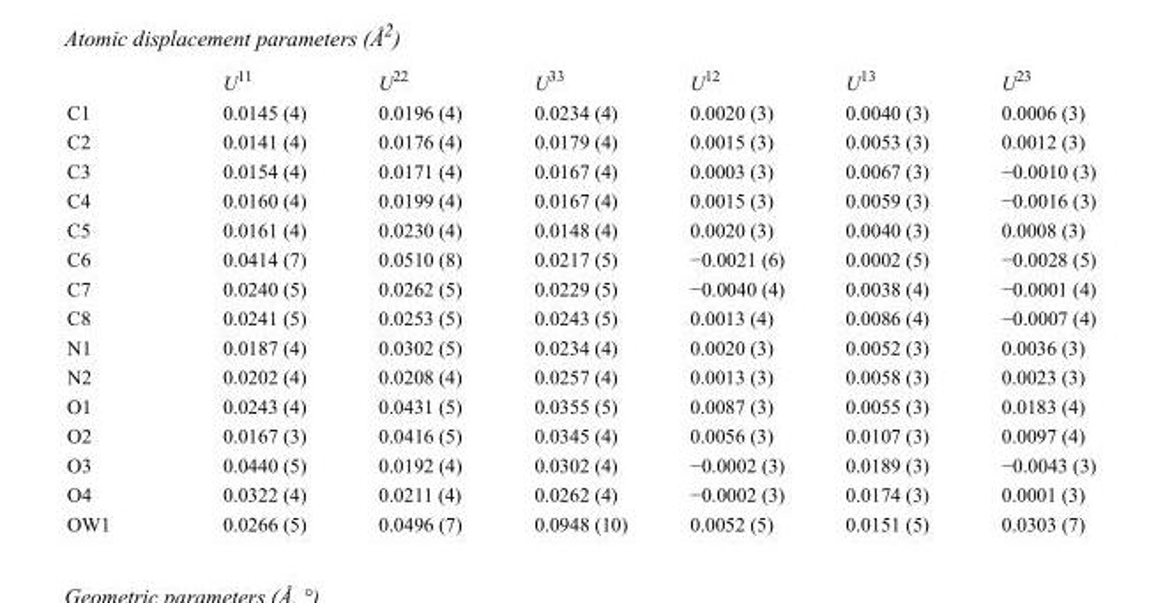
<table><thead><tr><td></td><td>U<sup>11</sup></td><td>U<sup>22</sup></td><td>U<sup>33</sup></td><td>U<sup>12</sup></td><td>U<sup>13</sup></td><td>U<sup>23</sup></td></tr></thead><tbody><tr><td>C1</td><td>0.0145 (4)</td><td>0.0196 (4)</td><td>0.0234 (4)</td><td>0.0020 (3)</td><td>0.0040 (3)</td><td>0.0006 (3)</td></tr><tr><td>C2</td><td>0.0141 (4)</td><td>0.0176 (4)</td><td>0.0179 (4)</td><td>0.0015 (3)</td><td>0.0053 (3)</td><td>0.0012 (3)</td></tr><tr><td>C3</td><td>0.0154 (4)</td><td>0.0171 (4)</td><td>0.0167 (4)</td><td>0.0003 (3)</td><td>0.0067 (3)</td><td>−0.0010 (3)</td></tr><tr><td>C4</td><td>0.0160 (4)</td><td>0.0199 (4)</td><td>0.0167 (4)</td><td>0.0015 (3)</td><td>0.0059 (3)</td><td>−0.0016 (3)</td></tr><tr><td>C5</td><td>0.0161 (4)</td><td>0.0230 (4)</td><td>0.0148 (4)</td><td>0.0020 (3)</td><td>0.0040 (3)</td><td>0.0008 (3)</td></tr><tr><td>C6</td><td>0.0414 (7)</td><td>0.0510 (8)</td><td>0.0217 (5)</td><td>−0.0021 (6)</td><td>0.0002 (5)</td><td>−0.0028 (5)</td></tr><tr><td>C7</td><td>0.0240 (5)</td><td>0.0262 (5)</td><td>0.0229 (5)</td><td>−0.0040 (4)</td><td>0.0038 (4)</td><td>−0.0001 (4)</td></tr><tr><td>C8</td><td>0.0241 (5)</td><td>0.0253 (5)</td><td>0.0243 (5)</td><td>0.0013 (4)</td><td>0.0086 (4)</td><td>−0.0007 (4)</td></tr><tr><td>N1</td><td>0.0187 (4)</td><td>0.0302 (5)</td><td>0.0234 (4)</td><td>0.0020 (3)</td><td>0.0052 (3)</td><td>0.0036 (3)</td></tr><tr><td>N2</td><td>0.0202 (4)</td><td>0.0208 (4)</td><td>0.0257 (4)</td><td>0.0013 (3)</td><td>0.0058 (3)</td><td>0.0023 (3)</td></tr><tr><td>O1</td><td>0.0243 (4)</td><td>0.0431 (5)</td><td>0.0355 (5)</td><td>0.0087 (3)</td><td>0.0055 (3)</td><td>0.0183 (4)</td></tr><tr><td>O2</td><td>0.0167 (3)</td><td>0.0416 (5)</td><td>0.0345 (4)</td><td>0.0056 (3)</td><td>0.0107 (3)</td><td>0.0097 (4)</td></tr><tr><td>O3</td><td>0.0440 (5)</td><td>0.0192 (4)</td><td>0.0302 (4)</td><td>−0.0002 (3)</td><td>0.0189 (3)</td><td>−0.0043 (3)</td></tr><tr><td>O4</td><td>0.0322 (4)</td><td>0.0211 (4)</td><td>0.0262 (4)</td><td>−0.0002 (3)</td><td>0.0174 (3)</td><td>0.0001 (3)</td></tr><tr><td>OW1</td><td>0.0266 (5)</td><td>0.0496 (7)</td><td>0.0948 (10)</td><td>0.0052 (5)</td><td>0.0151 (5)</td><td>0.0303 (7)</td></tr></tbody></table>